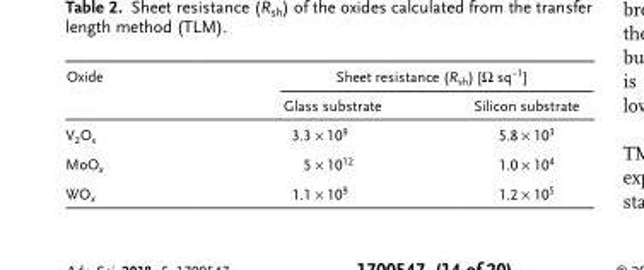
<table><thead><tr><td rowspan="2">Oxide</td><td colspan="2">Sheet resistance (R<sub>sh</sub>) [Ω sq<sup>−1</sup>]</td></tr><tr><td>Glass substrate</td><td>Silicon substrate</td></tr></thead><tbody><tr><td>V<sub>2</sub>O<sub>x</sub></td><td>3.3 × 10<sup>9</sup></td><td>5.8 × 10<sup>3</sup></td></tr><tr><td>MoO<sub>x</sub></td><td>5 × 10<sup>12</sup></td><td>1.0 × 10<sup>4</sup></td></tr><tr><td>WO<sub>x</sub></td><td>1.1 × 10<sup>9</sup></td><td>1.2 × 10<sup>5</sup></td></tr></tbody></table>